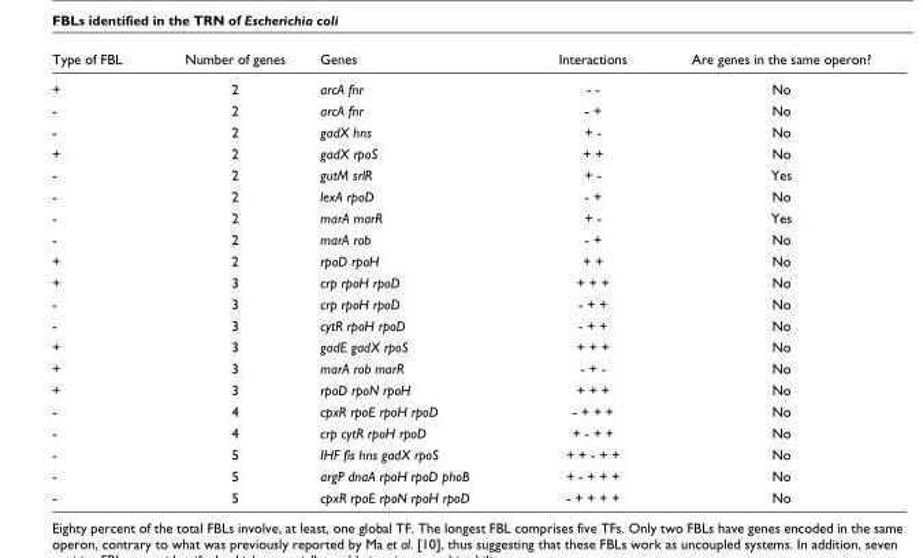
<table><thead><tr><td>Type of FBL</td><td>Number of genes</td><td>Genes</td><td>Interactions</td><td>Are genes in the same operon?</td></tr></thead><tbody><tr><td>+</td><td>2</td><td>arcA fnr</td><td>- -</td><td>No</td></tr><tr><td>-</td><td>2</td><td>arcA fnr</td><td>- +</td><td>No</td></tr><tr><td>-</td><td>2</td><td>gadX hns</td><td>+ -</td><td>No</td></tr><tr><td>+</td><td>2</td><td>gadX rpoS</td><td>+ +</td><td>No</td></tr><tr><td>-</td><td>2</td><td>gutM srlR</td><td>+ -</td><td>Yes</td></tr><tr><td>-</td><td>2</td><td>lexA rpoD</td><td>- +</td><td>No</td></tr><tr><td>-</td><td>2</td><td>marA marR</td><td>+ -</td><td>Yes</td></tr><tr><td>-</td><td>2</td><td>marA rob</td><td>- +</td><td>No</td></tr><tr><td>+</td><td>2</td><td>rpoD rpoH</td><td>+ +</td><td>No</td></tr><tr><td>+</td><td>3</td><td>crp rpoH rpoD</td><td>+ + +</td><td>No</td></tr><tr><td>-</td><td>3</td><td>crp rpoH rpoD</td><td>- + +</td><td>No</td></tr><tr><td>-</td><td>3</td><td>cytR rpoH rpoD</td><td>- + +</td><td>No</td></tr><tr><td>+</td><td>3</td><td>gadE gadX rpoS</td><td>+ + +</td><td>No</td></tr><tr><td>+</td><td>3</td><td>marA rob marR</td><td>- + -</td><td>No</td></tr><tr><td>+</td><td>3</td><td>rpoD rpoN rpoH</td><td>+ + +</td><td>No</td></tr><tr><td>-</td><td>4</td><td>cpxR rpoE rpoH rpoD</td><td>- + + +</td><td>No</td></tr><tr><td>-</td><td>4</td><td>crp cytR rpoH rpoD</td><td>+ - + +</td><td>No</td></tr><tr><td>-</td><td>5</td><td>IHF fis hns gadX rpoS</td><td>+ + - + +</td><td>No</td></tr><tr><td>-</td><td>5</td><td>argP dnaA rpoH rpoD phoB</td><td>+ - + + +</td><td>No</td></tr><tr><td>-</td><td>5</td><td>cpxR rpoE rpoN rpoH rpoD</td><td>- + + + +</td><td>No</td></tr></tbody></table>